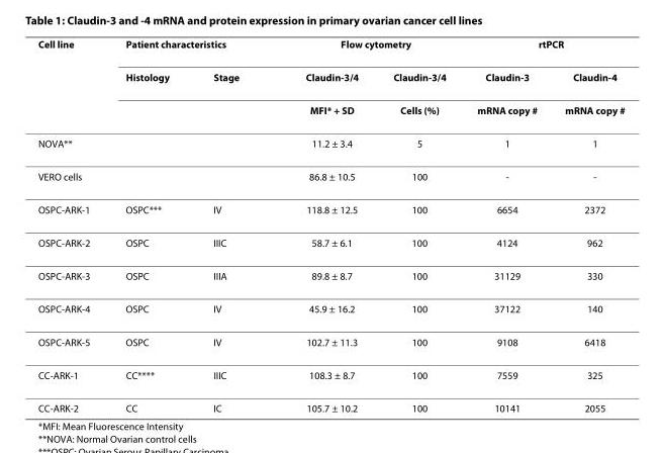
<table><thead><tr><td rowspan="3">Cell line</td><td colspan="2">Patient characteristics</td><td colspan="2">Flow cytometry</td><td colspan="2">rtPCR</td></tr><tr><td rowspan="2">Histology</td><td rowspan="2">Stage</td><td rowspan="2">Claudin-3/4 MFI* + SD</td><td rowspan="2">Claudin-3/4 Cells (%)</td><td rowspan="2">Claudin-3 mRNA copy #</td><td rowspan="2">Claudin-4 mRNA copy #</td></tr><tr></tr></thead><tbody><tr><td>NOVA**</td><td></td><td></td><td>11.2 ± 3.4</td><td>5</td><td>1</td><td>1</td></tr><tr><td>VERO cells</td><td></td><td></td><td>86.8 ± 10.5</td><td>100</td><td>-</td><td>-</td></tr><tr><td>OSPC-ARK-1</td><td>OSPC***</td><td>IV</td><td>118.8 ± 12.5</td><td>100</td><td>6654</td><td>2372</td></tr><tr><td>OSPC-ARK-2</td><td>OSPC</td><td>IIIC</td><td>58.7 ± 6.1</td><td>100</td><td>4124</td><td>962</td></tr><tr><td>OSPC-ARK-3</td><td>OSPC</td><td>IIIA</td><td>89.8 ± 8.7</td><td>100</td><td>31129</td><td>330</td></tr><tr><td>OSPC-ARK-4</td><td>OSPC</td><td>IV</td><td>45.9 ± 16.2</td><td>100</td><td>37122</td><td>140</td></tr><tr><td>OSPC-ARK-5</td><td>OSPC</td><td>IV</td><td>102.7 ± 11.3</td><td>100</td><td>9108</td><td>6418</td></tr><tr><td>CC-ARK-1</td><td>CC****</td><td>IIIC</td><td>108.3 ± 8.7</td><td>100</td><td>7559</td><td>325</td></tr><tr><td>CC-ARK-2</td><td>CC</td><td>IC</td><td>105.7 ± 10.2</td><td>100</td><td>10141</td><td>2055</td></tr></tbody></table>